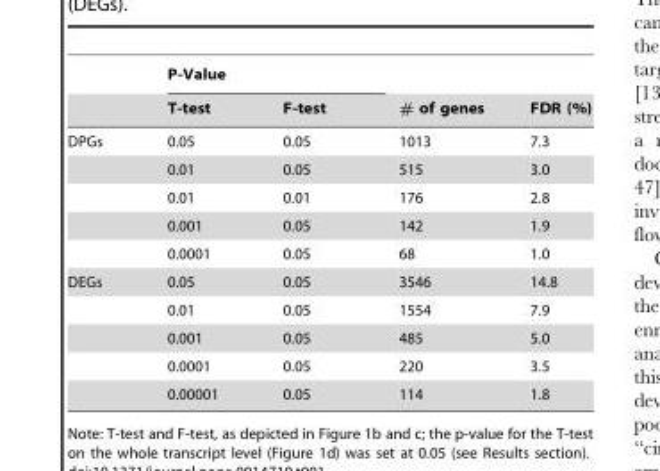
<table><thead><tr><td rowspan="2"></td><td rowspan="2">P-Value T-test</td><td rowspan="2">F-test</td><td rowspan="2"># of genes</td><td rowspan="2">FDR (%)</td></tr><tr></tr></thead><tbody><tr><td rowspan="5">DPGs</td><td>0.05</td><td>0.05</td><td>1013</td><td>7.3</td></tr><tr><td>0.01</td><td>0.05</td><td>515</td><td>3.0</td></tr><tr><td>0.01</td><td>0.01</td><td>176</td><td>2.8</td></tr><tr><td>0.001</td><td>0.05</td><td>142</td><td>1.9</td></tr><tr><td>0.0001</td><td>0.05</td><td>68</td><td>1.0</td></tr><tr><td rowspan="5">DEGs</td><td>0.05</td><td>0.05</td><td>3546</td><td>14.8</td></tr><tr><td>0.01</td><td>0.05</td><td>1554</td><td>7.9</td></tr><tr><td>0.001</td><td>0.05</td><td>485</td><td>5.0</td></tr><tr><td>0.0001</td><td>0.05</td><td>220</td><td>3.5</td></tr><tr><td>0.00001</td><td>0.05</td><td>114</td><td>1.8</td></tr></tbody></table>